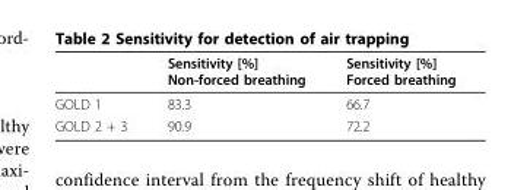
<table><thead><tr><td></td><td>Sensitivity [%] Non-forced breathing</td><td>Sensitivity [%] Forced breathing</td></tr></thead><tbody><tr><td>GOLD 1</td><td>83.3</td><td>66.7</td></tr><tr><td>GOLD 2 + 3</td><td>90.9</td><td>72.2</td></tr></tbody></table>